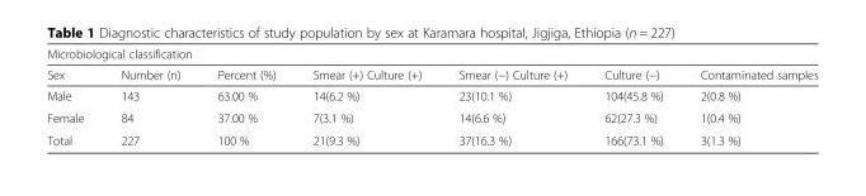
<table><thead><tr><td colspan="7">Microbiological classification</td></tr><tr><td>Sex</td><td>Number (n)</td><td>Percent (%)</td><td>Smear (+) Culture (+)</td><td>Smear (−) Culture (+)</td><td>Culture (−)</td><td>Contaminated samples</td></tr></thead><tbody><tr><td>Male</td><td>143</td><td>63.00 %</td><td>14(6.2 %)</td><td>23(10.1 %)</td><td>104(45.8 %)</td><td>2(0.8 %)</td></tr><tr><td>Female</td><td>84</td><td>37.00 %</td><td>7(3.1 %)</td><td>14(6.6 %)</td><td>62(27.3 %)</td><td>1(0.4 %)</td></tr><tr><td>Total</td><td>227</td><td>100 %</td><td>21(9.3 %)</td><td>37(16.3 %)</td><td>166(73.1 %)</td><td>3(1.3 %)</td></tr></tbody></table>